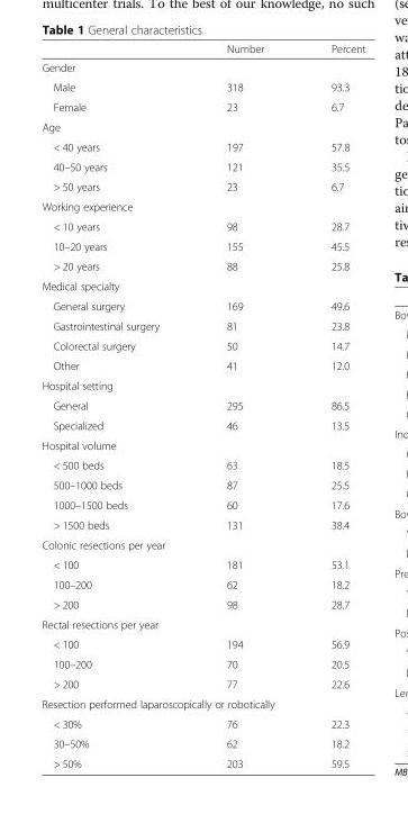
<table><thead><tr><td></td><td>Number</td><td>Percent</td></tr></thead><tbody><tr><td colspan="3">Gender</td></tr><tr><td>Male</td><td>318</td><td>93.3</td></tr><tr><td>Female</td><td>23</td><td>6.7</td></tr><tr><td colspan="3">Age</td></tr><tr><td>&lt; 40 years</td><td>197</td><td>57.8</td></tr><tr><td>40–50 years</td><td>121</td><td>35.5</td></tr><tr><td>&gt; 50 years</td><td>23</td><td>6.7</td></tr><tr><td colspan="3">Working experience</td></tr><tr><td>&lt; 10 years</td><td>98</td><td>28.7</td></tr><tr><td>10–20 years</td><td>155</td><td>45.5</td></tr><tr><td>&gt; 20 years</td><td>88</td><td>25.8</td></tr><tr><td colspan="3">Medical specialty</td></tr><tr><td>General surgery</td><td>169</td><td>49.6</td></tr><tr><td>Gastrointestinal surgery</td><td>81</td><td>23.8</td></tr><tr><td>Colorectal surgery</td><td>50</td><td>14.7</td></tr><tr><td>Other</td><td>41</td><td>12.0</td></tr><tr><td colspan="3">Hospital setting</td></tr><tr><td>General</td><td>295</td><td>86.5</td></tr><tr><td>Specialized</td><td>46</td><td>13.5</td></tr><tr><td colspan="3">Hospital volume</td></tr><tr><td>&lt; 500 beds</td><td>63</td><td>18.5</td></tr><tr><td>500–1000 beds</td><td>87</td><td>25.5</td></tr><tr><td>1000–1500 beds</td><td>60</td><td>17.6</td></tr><tr><td>&gt; 1500 beds</td><td>131</td><td>38.4</td></tr><tr><td colspan="3">Colonic resections per year</td></tr><tr><td>&lt; 100</td><td>181</td><td>53.1</td></tr><tr><td>100–200</td><td>62</td><td>18.2</td></tr><tr><td>&gt; 200</td><td>98</td><td>28.7</td></tr><tr><td colspan="3">Rectal resections per year</td></tr><tr><td>&lt; 100</td><td>194</td><td>56.9</td></tr><tr><td>100–200</td><td>70</td><td>20.5</td></tr><tr><td>&gt; 200</td><td>77</td><td>22.6</td></tr><tr><td colspan="3">Resection performed laparoscopically or robotically</td></tr><tr><td>&lt; 30%</td><td>76</td><td>22.3</td></tr><tr><td>30–50%</td><td>62</td><td>18.2</td></tr><tr><td>&gt; 50%</td><td>203</td><td>59.5</td></tr></tbody></table>